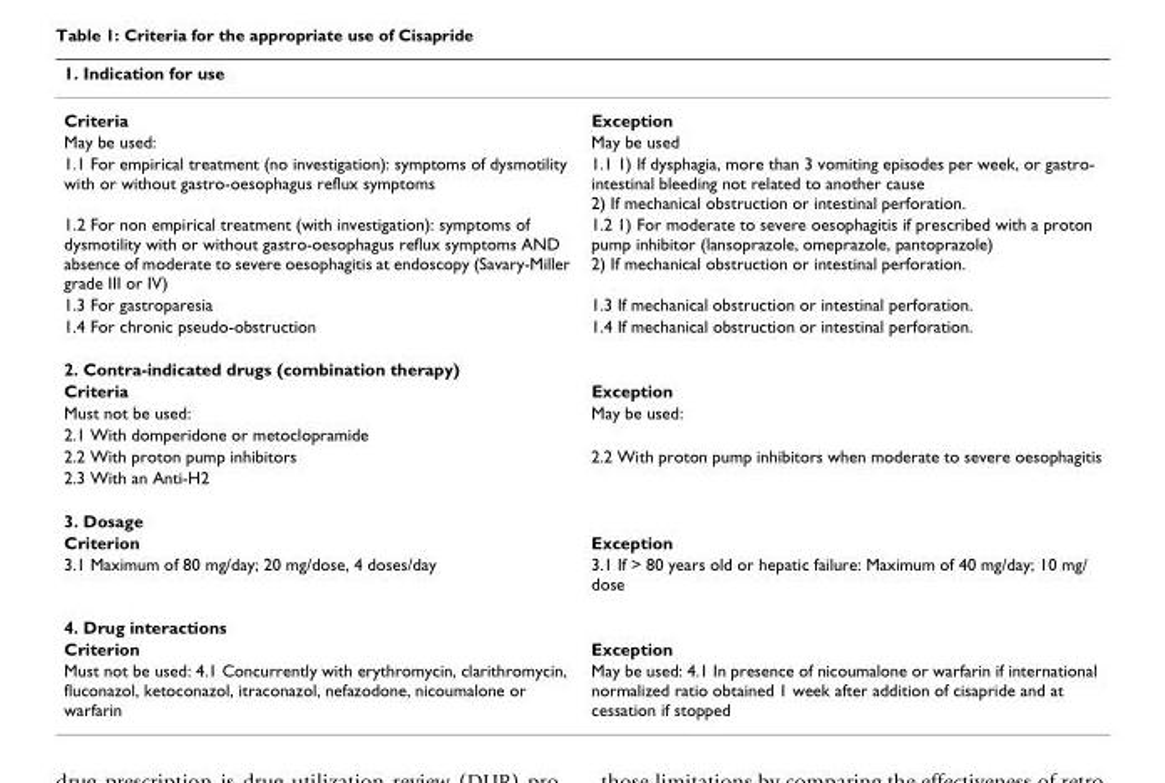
<table><thead><tr><td colspan="2">1. Indication for use</td></tr><tr><td>Criteria</td><td>Exception</td></tr></thead><tbody><tr><td>May be used:</td><td>May be used</td></tr><tr><td>1.1 For empirical treatment (no investigation): symptoms of dysmotility with or without gastro-oesophagus reflux symptoms</td><td>1.1 1) If dysphagia, more than 3 vomiting episodes per week, or gastro- intestinal bleeding not related to another cause 2) If mechanical obstruction or intestinal perforation.</td></tr><tr><td>1.2 For non empirical treatment (with investigation): symptoms of dysmotility with or without gastro-oesophagus reflux symptoms AND absence of moderate to severe oesophagitis at endoscopy (Savary-Miller grade III or IV)</td><td>1.2 1) For moderate to severe oesophagitis if prescribed with a proton pump inhibitor (lansoprazole, omeprazole, pantoprazole) 2) If mechanical obstruction or intestinal perforation.</td></tr><tr><td>1.3 For gastroparesia</td><td>1.3 If mechanical obstruction or intestinal perforation.</td></tr><tr><td>1.4 For chronic pseudo-obstruction</td><td>1.4 If mechanical obstruction or intestinal perforation.</td></tr><tr><td colspan="2">2. Contra-indicated drugs (combination therapy)</td></tr><tr><td>Criteria</td><td>Exception</td></tr><tr><td>Must not be used:</td><td>May be used:</td></tr><tr><td colspan="2">2.1 With domperidone or metoclopramide</td></tr><tr><td>2.2 With proton pump inhibitors</td><td>2.2 With proton pump inhibitors when moderate to severe oesophagitis</td></tr><tr><td colspan="2">2.3 With an Anti-H2</td></tr><tr><td colspan="2">3. Dosage</td></tr><tr><td>Criterion</td><td>Exception</td></tr><tr><td>3.1 Maximum of 80 mg/day; 20 mg/dose, 4 doses/day</td><td>3.1 If &gt; 80 years old or hepatic failure: Maximum of 40 mg/day; 10 mg/ dose</td></tr><tr><td colspan="2">4. Drug interactions</td></tr><tr><td>Criterion</td><td>Exception</td></tr><tr><td>Must not be used: 4.1 Concurrently with erythromycin, clarithromycin, fluconazol, ketoconazol, itraconazol, nefazodone, nicoumalone or warfarin</td><td>May be used: 4.1 In presence of nicoumalone or warfarin if international normalized ratio obtained 1 week after addition of cisapride and at cessation if stopped</td></tr></tbody></table>